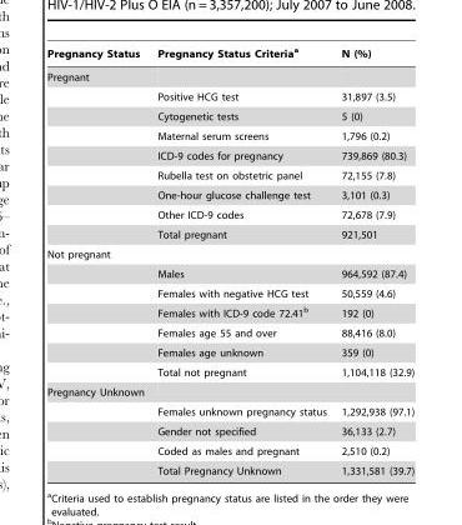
<table><thead><tr><td>Pregnancy Status</td><td>Pregnancy Status Criteria<sup>a</sup></td><td>N (%)</td></tr></thead><tbody><tr><td colspan="3">Pregnant</td></tr><tr><td></td><td>Positive HCG test</td><td>31,897 (3.5)</td></tr><tr><td></td><td>Cytogenetic tests</td><td>5 (0)</td></tr><tr><td></td><td>Maternal serum screens</td><td>1,796 (0.2)</td></tr><tr><td></td><td>ICD-9 codes for pregnancy</td><td>739,869 (80.3)</td></tr><tr><td></td><td>Rubella test on obstetric panel</td><td>72,155 (7.8)</td></tr><tr><td></td><td>One-hour glucose challenge test</td><td>3,101 (0.3)</td></tr><tr><td></td><td>Other ICD-9 codes</td><td>72,678 (7.9)</td></tr><tr><td></td><td>Total pregnant</td><td>921,501</td></tr><tr><td colspan="3">Not pregnant</td></tr><tr><td></td><td>Males</td><td>964,592 (87.4)</td></tr><tr><td></td><td>Females with negative HCG test</td><td>50,559 (4.6)</td></tr><tr><td></td><td>Females with ICD-9 code 72.41<sup>b</sup></td><td>192 (0)</td></tr><tr><td></td><td>Females age 55 and over</td><td>88,416 (8.0)</td></tr><tr><td></td><td>Females age unknown</td><td>359 (0)</td></tr><tr><td></td><td>Total not pregnant</td><td>1,104,118 (32.9)</td></tr><tr><td colspan="3">Pregnancy Unknown</td></tr><tr><td></td><td>Females unknown pregnancy status</td><td>1,292,938 (97.1)</td></tr><tr><td></td><td>Gender not specified</td><td>36,133 (2.7)</td></tr><tr><td></td><td>Coded as males and pregnant</td><td>2,510 (0.2)</td></tr><tr><td></td><td>Total Pregnancy Unknown</td><td>1,331,581 (39.7)</td></tr></tbody></table>